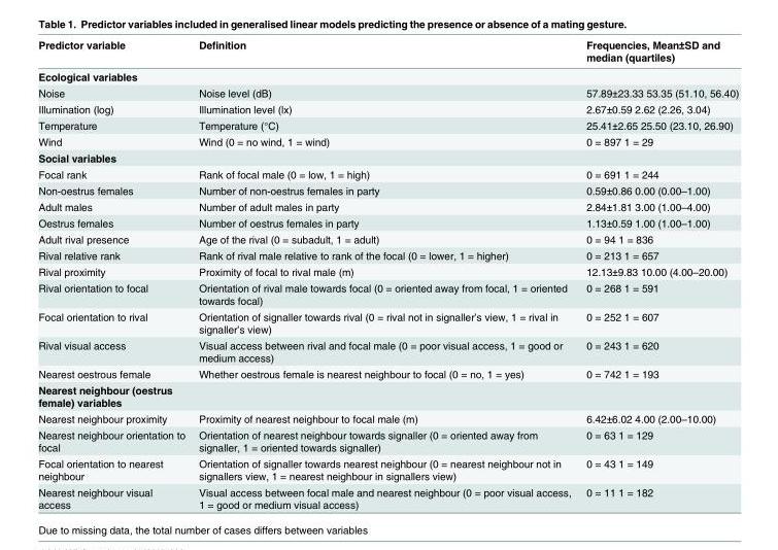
<table><thead><tr><td>Predictor variable</td><td>Definition</td><td>Frequencies, Mean±SD and median (quartiles)</td></tr></thead><tbody><tr><td colspan="3">Ecological variables</td></tr><tr><td>Noise</td><td>Noise level (dB)</td><td>57.89±23.33 53.35 (51.10, 56.40)</td></tr><tr><td>Illumination (log)</td><td>Illumination level (lx)</td><td>2.67±0.59 2.62 (2.26, 3.04)</td></tr><tr><td>Temperature</td><td>Temperature (°C)</td><td>25.41±2.65 25.50 (23.10, 26.90)</td></tr><tr><td>Wind</td><td>Wind (0 = no wind, 1 = wind)</td><td>0 = 897 1 = 29</td></tr><tr><td colspan="3">Social variables</td></tr><tr><td>Focal rank</td><td>Rank of focal male (0 = low, 1 = high)</td><td>0 = 691 1 = 244</td></tr><tr><td>Non-oestrus females</td><td>Number of non-oestrus females in party</td><td>0.59±0.86 0.00 (0.00–1.00)</td></tr><tr><td>Adult males</td><td>Number of adult males in party</td><td>2.84±1.81 3.00 (1.00–4.00)</td></tr><tr><td>Oestrus females</td><td>Number of oestrus females in party</td><td>1.13±0.59 1.00 (1.00–1.00)</td></tr><tr><td>Adult rival presence</td><td>Age of the rival (0 = subadult, 1 = adult)</td><td>0 = 94 1 = 836</td></tr><tr><td>Rival relative rank</td><td>Rank of rival male relative to rank of the focal (0 = lower, 1 = higher)</td><td>0 = 213 1 = 657</td></tr><tr><td>Rival proximity</td><td>Proximity of focal to rival male (m)</td><td>12.13±9.83 10.00 (4.00–20.00)</td></tr><tr><td>Rival orientation to focal</td><td>Orientation of rival male towards focal (0 = oriented away from focal, 1 = oriented towards focal)</td><td>0 = 268 1 = 591</td></tr><tr><td>Focal orientation to rival</td><td>Orientation of signaller towards rival (0 = rival not in signaller’s view, 1 = rival in signaller’s view)</td><td>0 = 252 1 = 607</td></tr><tr><td>Rival visual access</td><td>Visual access between rival and focal male (0 = poor visual access, 1 = good or medium access)</td><td>0 = 243 1 = 620</td></tr><tr><td>Nearest oestrous female</td><td>Whether oestrous female is nearest neighbour to focal (0 = no, 1 = yes)</td><td>0 = 742 1 = 193</td></tr><tr><td colspan="3">Nearest neighbour (oestrus female) variables</td></tr><tr><td>Nearest neighbour proximity</td><td>Proximity of nearest neighbour to focal male (m)</td><td>6.42±6.02 4.00 (2.00–10.00)</td></tr><tr><td>Nearest neighbour orientation to focal</td><td>Orientation of nearest neighbour towards signaller (0 = oriented away from signaller, 1 = oriented towards signaller)</td><td>0 = 63 1 = 129</td></tr><tr><td>Focal orientation to nearest neighbour</td><td>Orientation of signaller towards nearest neighbour (0 = nearest neighbour not in signallers view, 1 = nearest neighbour in signallers view)</td><td>0 = 43 1 = 149</td></tr><tr><td>Nearest neighbour visual access</td><td>Visual access between focal male and nearest neighbour (0 = poor visual access, 1 = good or medium visual access)</td><td>0 = 11 1 = 182</td></tr></tbody></table>